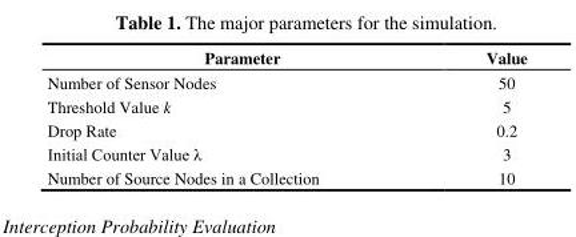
<table><thead><tr><td>Parameter</td><td>Value</td></tr></thead><tbody><tr><td>Number of Sensor Nodes</td><td>50</td></tr><tr><td>Threshold Value k</td><td>5</td></tr><tr><td>Drop Rate</td><td>0.2</td></tr><tr><td>Initial Counter Value λ</td><td>3</td></tr><tr><td>Number of Source Nodes in a Collection</td><td>10</td></tr></tbody></table>